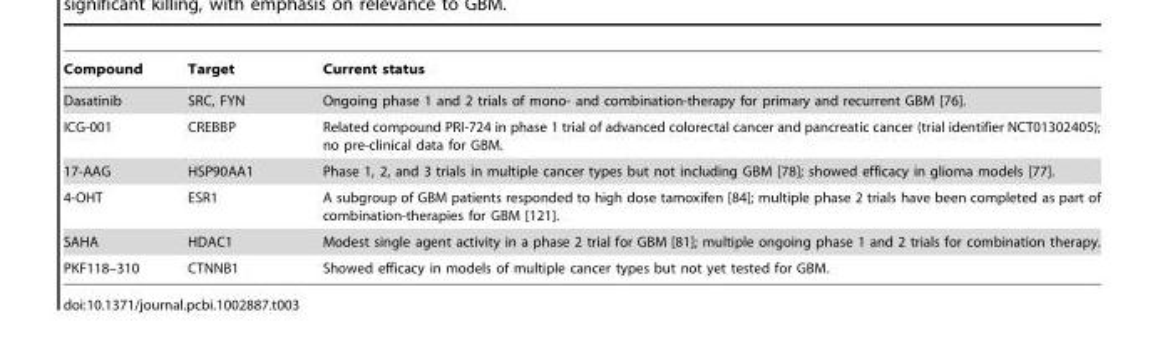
<table><thead><tr><td>Compound</td><td>Target</td><td>Current status</td></tr></thead><tbody><tr><td>Dasatinib</td><td>SRC, FYN</td><td>Ongoing phase 1 and 2 trials of mono- and combination-therapy for primary and recurrent GBM [76].</td></tr><tr><td>ICG-001</td><td>CREBBP</td><td>Related compound PRI-724 in phase 1 trial of advanced colorectal cancer and pancreatic cancer (trial identifier NCT01302405); no pre-clinical data for GBM.</td></tr><tr><td>17-AAG</td><td>HSP90AA1</td><td>Phase 1, 2, and 3 trials in multiple cancer types but not including GBM [78]; showed efficacy in glioma models [77].</td></tr><tr><td>4-OHT</td><td>ESR1</td><td>A subgroup of GBM patients responded to high dose tamoxifen [84]; multiple phase 2 trials have been completed as part of combination-therapies for GBM [121].</td></tr><tr><td>SAHA</td><td>HDAC1</td><td>Modest single agent activity in a phase 2 trial for GBM [81]; multiple ongoing phase 1 and 2 trials for combination therapy.</td></tr><tr><td>PKF118–310</td><td>CTNNB1</td><td>Showed efficacy in models of multiple cancer types but not yet tested for GBM.</td></tr></tbody></table>